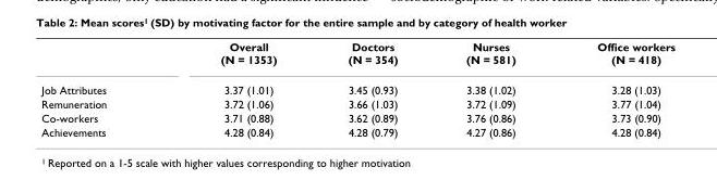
<table><thead><tr><td></td><td>Overall (N = 1353)</td><td>Doctors (N = 354)</td><td>Nurses (N = 581)</td><td>Office workers (N = 418)</td></tr></thead><tbody><tr><td>Job Attributes</td><td>3.37 (1.01)</td><td>3.45 (0.93)</td><td>3.38 (1.02)</td><td>3.28 (1.03)</td></tr><tr><td>Remuneration</td><td>3.72 (1.06)</td><td>3.66 (1.03)</td><td>3.72 (1.09)</td><td>3.77 (1.04)</td></tr><tr><td>Co-workers</td><td>3.71 (0.88)</td><td>3.62 (0.89)</td><td>3.76 (0.86)</td><td>3.73 (0.90)</td></tr><tr><td>Achievements</td><td>4.28 (0.84)</td><td>4.28 (0.79)</td><td>4.27 (0.86)</td><td>4.28 (0.84)</td></tr></tbody></table>